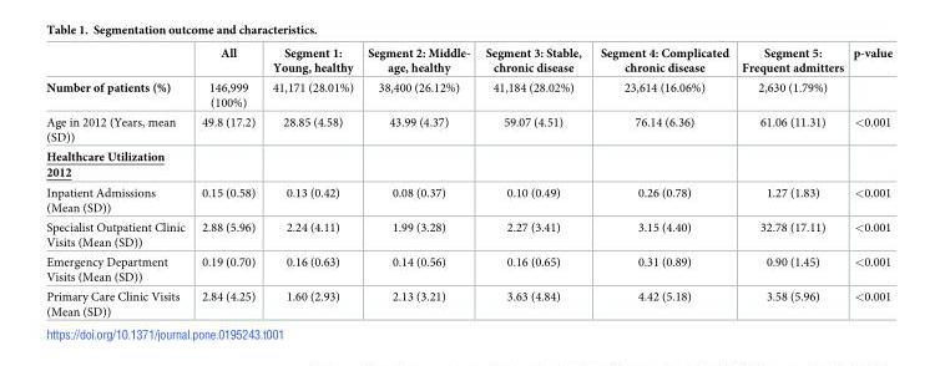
<table><thead><tr><td></td><td>All</td><td>Segment 1: Young, healthy</td><td>Segment 2: Middle- age, healthy</td><td>Segment 3: Stable, chronic disease</td><td>Segment 4: Complicated chronic disease</td><td>Segment 5: Frequent admitters</td><td>p-value</td></tr></thead><tbody><tr><td>Number of patients (%)</td><td>146,999 (100%)</td><td>41,171 (28.01%)</td><td>38,400 (26.12%)</td><td>41,184 (28.02%)</td><td>23,614 (16.06%)</td><td>2,630 (1.79%)</td><td></td></tr><tr><td>Age in 2012 (Years, mean (SD))</td><td>49.8 (17.2)</td><td>28.85 (4.58)</td><td>43.99 (4.37)</td><td>59.07 (4.51)</td><td>76.14 (6.36)</td><td>61.06 (11.31)</td><td>&lt;0.001</td></tr><tr><td colspan="8">Healthcare Utilization 2012</td></tr><tr><td>Inpatient Admissions (Mean (SD))</td><td>0.15 (0.58)</td><td>0.13 (0.42)</td><td>0.08 (0.37)</td><td>0.10 (0.49)</td><td>0.26 (0.78)</td><td>1.27 (1.83)</td><td>&lt;0.001</td></tr><tr><td>Specialist Outpatient Clinic Visits (Mean (SD))</td><td>2.88 (5.96)</td><td>2.24 (4.11)</td><td>1.99 (3.28)</td><td>2.27 (3.41)</td><td>3.15 (4.40)</td><td>32.78 (17.11)</td><td>&lt;0.001</td></tr><tr><td>Emergency Department Visits (Mean (SD))</td><td>0.19 (0.70)</td><td>0.16 (0.63)</td><td>0.14 (0.56)</td><td>0.16 (0.65)</td><td>0.31 (0.89)</td><td>0.90 (1.45)</td><td>&lt;0.001</td></tr><tr><td>Primary Care Clinic Visits (Mean (SD))</td><td>2.84 (4.25)</td><td>1.60 (2.93)</td><td>2.13 (3.21)</td><td>3.63 (4.84)</td><td>4.42 (5.18)</td><td>3.58 (5.96)</td><td>&lt;0.001</td></tr></tbody></table>